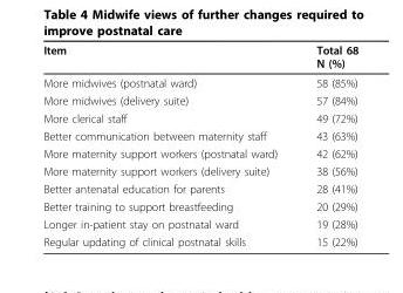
<table><thead><tr><td>Item</td><td>Total 68 N (%)</td></tr></thead><tbody><tr><td>More midwives (postnatal ward)</td><td>58 (85%)</td></tr><tr><td>More midwives (delivery suite)</td><td>57 (84%)</td></tr><tr><td>More clerical staff</td><td>49 (72%)</td></tr><tr><td>Better communication between maternity staff</td><td>43 (63%)</td></tr><tr><td>More maternity support workers (postnatal ward)</td><td>42 (62%)</td></tr><tr><td>More maternity support workers (delivery suite)</td><td>38 (56%)</td></tr><tr><td>Better antenatal education for parents</td><td>28 (41%)</td></tr><tr><td>Better training to support breastfeeding</td><td>20 (29%)</td></tr><tr><td>Longer in-patient stay on postnatal ward</td><td>19 (28%)</td></tr><tr><td>Regular updating of clinical postnatal skills</td><td>15 (22%)</td></tr></tbody></table>